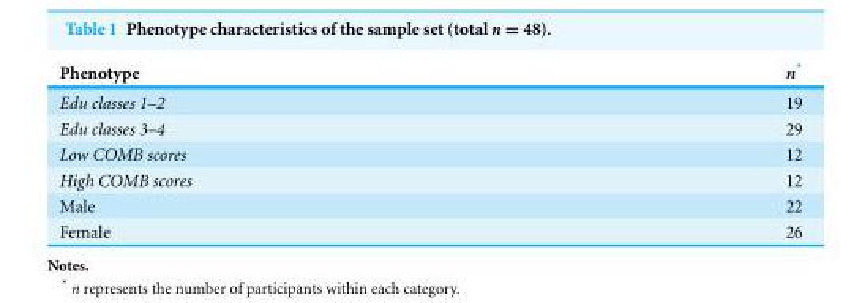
<table><thead><tr><td>Phenotype</td><td>n*</td></tr></thead><tbody><tr><td>Edu classes 1–2</td><td>19</td></tr><tr><td>Edu classes 3–4</td><td>29</td></tr><tr><td>Low COMB scores</td><td>12</td></tr><tr><td>High COMB scores</td><td>12</td></tr><tr><td>Male</td><td>22</td></tr><tr><td>Female</td><td>26</td></tr></tbody></table>